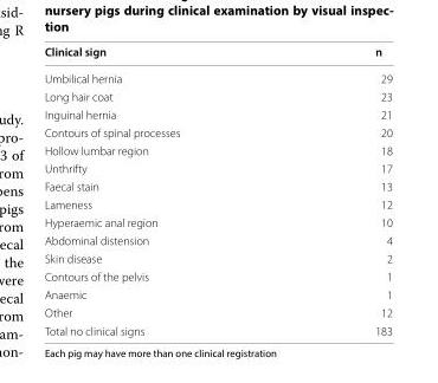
<table><thead><tr><td>Clinical sign</td><td>n</td></tr></thead><tbody><tr><td>Umbilical hernia</td><td>29</td></tr><tr><td>Long hair coat</td><td>23</td></tr><tr><td>Inguinal hernia</td><td>21</td></tr><tr><td>Contours of spinal processes</td><td>20</td></tr><tr><td>Hollow lumbar region</td><td>18</td></tr><tr><td>Unthrifty</td><td>17</td></tr><tr><td>Faecal stain</td><td>13</td></tr><tr><td>Lameness</td><td>12</td></tr><tr><td>Hyperaemic anal region</td><td>10</td></tr><tr><td>Abdominal distension</td><td>4</td></tr><tr><td>Skin disease</td><td>2</td></tr><tr><td>Contours of the pelvis</td><td>1</td></tr><tr><td>Anaemic</td><td>1</td></tr><tr><td>Other</td><td>12</td></tr><tr><td>Total no clinical signs</td><td>183</td></tr></tbody></table>